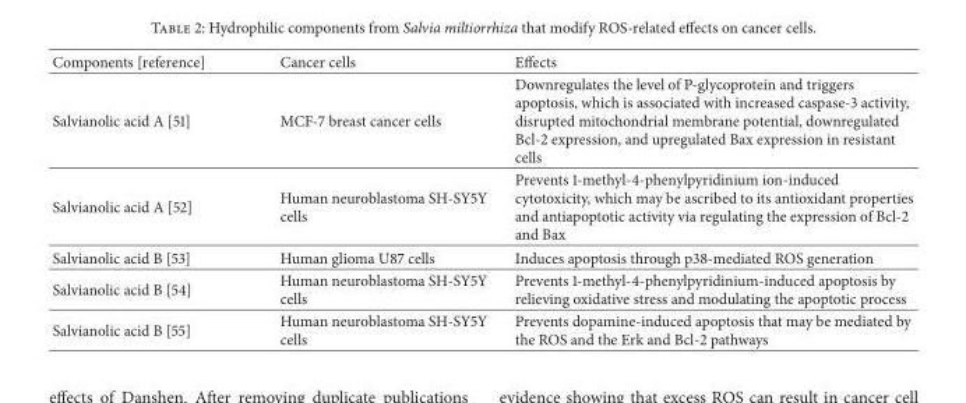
<table><thead><tr><td>Components [reference]</td><td>Cancer cells</td><td>Effects</td></tr></thead><tbody><tr><td>Salvianolic acid A [51]</td><td>MCF-7 breast cancer cells</td><td>Downregulates the level of P-glycoprotein and triggers apoptosis, which is associated with increased caspase-3 activity, disrupted mitochondrial membrane potential, downregulated Bcl-2 expression, and upregulated Bax expression in resistant cells</td></tr><tr><td>Salvianolic acid A [52]</td><td>Human neuroblastoma SH-SY5Y cells</td><td>Prevents 1-methyl-4-phenylpyridinium ion-induced cytotoxicity, which may be ascribed to its antioxidant properties and antiapoptotic activity via regulating the expression of Bcl-2 and Bax</td></tr><tr><td>Salvianolic acid B [53]</td><td>Human glioma U87 cells</td><td>Induces apoptosis through p38-mediated ROS generation</td></tr><tr><td>Salvianolic acid B [54]</td><td>Human neuroblastoma SH-SY5Y cells</td><td>Prevents 1-methyl-4-phenylpyridinium-induced apoptosis by relieving oxidative stress and modulating the apoptotic process</td></tr><tr><td>Salvianolic acid B [55]</td><td>Human neuroblastoma SH-SY5Y cells</td><td>Prevents dopamine-induced apoptosis that may be mediated by the ROS and the Erk and Bcl-2 pathways</td></tr></tbody></table>